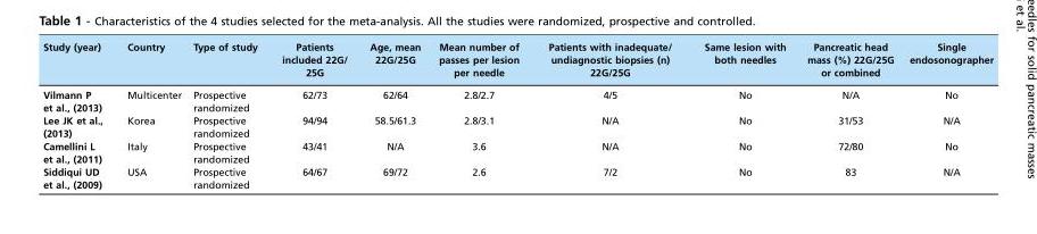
<table><thead><tr><td>Study (year)</td><td>Country</td><td>Type of study</td><td>Patients included 22G/ 25G</td><td>Age, mean 22G/25G</td><td>Mean number of passes per lesion per needle</td><td>Patients with inadequate/ undiagnostic biopsies (n) 22G/25G</td><td>Same lesion with both needles</td><td>Pancreatic head mass (%) 22G/25G or combined</td><td>Single endosonographer</td></tr></thead><tbody><tr><td>Vilmann P et al., (2013)</td><td>Multicenter</td><td>Prospective randomized</td><td>62/73</td><td>62/64</td><td>2.8/2.7</td><td>4/5</td><td>No</td><td>N/A</td><td>No</td></tr><tr><td>Lee JK et al., (2013)</td><td>Korea</td><td>Prospective randomized</td><td>94/94</td><td>58.5/61.3</td><td>2.8/3.1</td><td>N/A</td><td>No</td><td>31/53</td><td>N/A</td></tr><tr><td>Camellini L et al., (2011)</td><td>Italy</td><td>Prospective randomized</td><td>43/41</td><td>N/A</td><td>3.6</td><td>N/A</td><td>No</td><td>72/80</td><td>No</td></tr><tr><td>Siddiqui UD et al., (2009)</td><td>USA</td><td>Prospective randomized</td><td>64/67</td><td>69/72</td><td>2.6</td><td>7/2</td><td>No</td><td>83</td><td>N/A</td></tr></tbody></table>